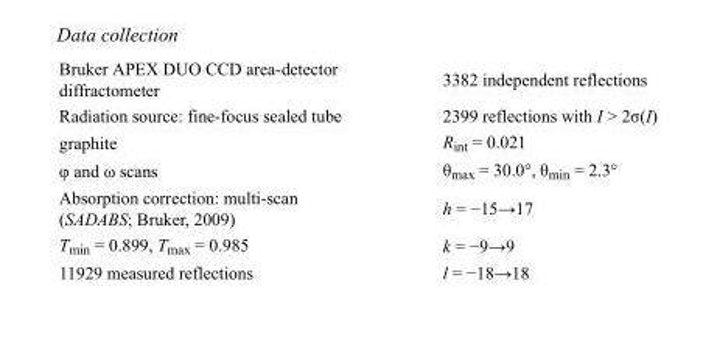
<table><tbody><tr><td>Bruker APEX DUO CCD area-detector diffractometer</td><td>3382 independent reflections</td></tr><tr><td>Radiation source: fine-focus sealed tube</td><td>2399 reflections with I &gt; 2σ(I)</td></tr><tr><td>graphite</td><td>R<sub>int</sub> = 0.021</td></tr><tr><td>φ and ω scans</td><td>θ<sub>max</sub> = 30.0°, θ<sub>min</sub> = 2.3°</td></tr><tr><td>Absorption correction: multi-scan (SADABS; Bruker, 2009)</td><td>h = −15→17</td></tr><tr><td>T<sub>min</sub> = 0.899, T<sub>max</sub> = 0.985</td><td>k = −9→9</td></tr><tr><td>11929 measured reflections</td><td>l = −18→18</td></tr></tbody></table>